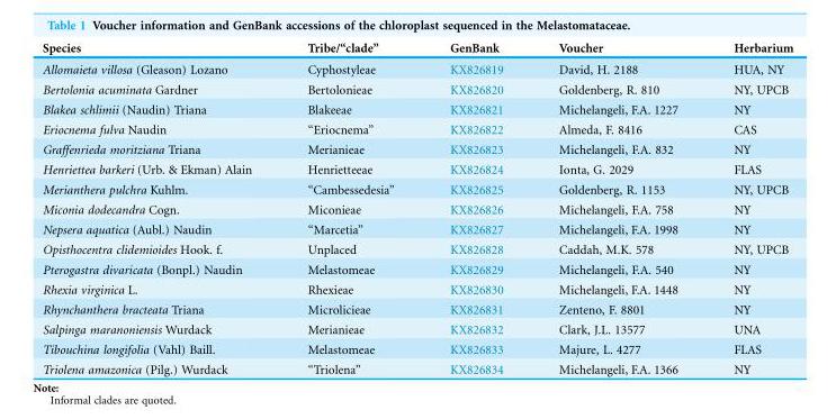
<table><thead><tr><td>Species</td><td>Tribe/“clade”</td><td>GenBank</td><td>Voucher</td><td>Herbarium</td></tr></thead><tbody><tr><td>Allomaieta villosa (Gleason) Lozano</td><td>Cyphostyleae</td><td>KX826819</td><td>David, H. 2188</td><td>HUA, NY</td></tr><tr><td>Bertolonia acuminata Gardner</td><td>Bertolonieae</td><td>KX826820</td><td>Goldenberg, R. 810</td><td>NY, UPCB</td></tr><tr><td>Blakea schlimii (Naudin) Triana</td><td>Blakeeae</td><td>KX826821</td><td>Michelangeli, F.A. 1227</td><td>NY</td></tr><tr><td>Eriocnema fulva Naudin</td><td>“Eriocnema”</td><td>KX826822</td><td>Almeda, F. 8416</td><td>CAS</td></tr><tr><td>Graffenrieda moritziana Triana</td><td>Merianieae</td><td>KX826823</td><td>Michelangeli, F.A. 832</td><td>NY</td></tr><tr><td>Henriettea barkeri (Urb. &amp; Ekman) Alain</td><td>Henrietteeae</td><td>KX826824</td><td>Ionta, G. 2029</td><td>FLAS</td></tr><tr><td>Merianthera pulchra Kuhlm.</td><td>“Cambessedesia”</td><td>KX826825</td><td>Goldenberg, R. 1153</td><td>NY, UPCB</td></tr><tr><td>Miconia dodecandra Cogn.</td><td>Miconieae</td><td>KX826826</td><td>Michelangeli, F.A. 758</td><td>NY</td></tr><tr><td>Nepsera aquatica (Aubl.) Naudin</td><td>“Marcetia”</td><td>KX826827</td><td>Michelangeli, F.A. 1998</td><td>NY</td></tr><tr><td>Opisthocentra clidemioides Hook. f.</td><td>Unplaced</td><td>KX826828</td><td>Caddah, M.K. 578</td><td>NY, UPCB</td></tr><tr><td>Pterogastra divaricata (Bonpl.) Naudin</td><td>Melastomeae</td><td>KX826829</td><td>Michelangeli, F.A. 540</td><td>NY</td></tr><tr><td>Rhexia virginica L.</td><td>Rhexieae</td><td>KX826830</td><td>Michelangeli, F.A. 1448</td><td>NY</td></tr><tr><td>Rhynchanthera bracteata Triana</td><td>Microlicieae</td><td>KX826831</td><td>Zenteno, F. 8801</td><td>NY</td></tr><tr><td>Salpinga maranoniensis Wurdack</td><td>Merianieae</td><td>KX826832</td><td>Clark, J.L. 13577</td><td>UNA</td></tr><tr><td>Tibouchina longifolia (Vahl) Baill.</td><td>Melastomeae</td><td>KX826833</td><td>Majure, L. 4277</td><td>FLAS</td></tr><tr><td>Triolena amazonica (Pilg.) Wurdack</td><td>“Triolena”</td><td>KX826834</td><td>Michelangeli, F.A. 1366</td><td>NY</td></tr></tbody></table>